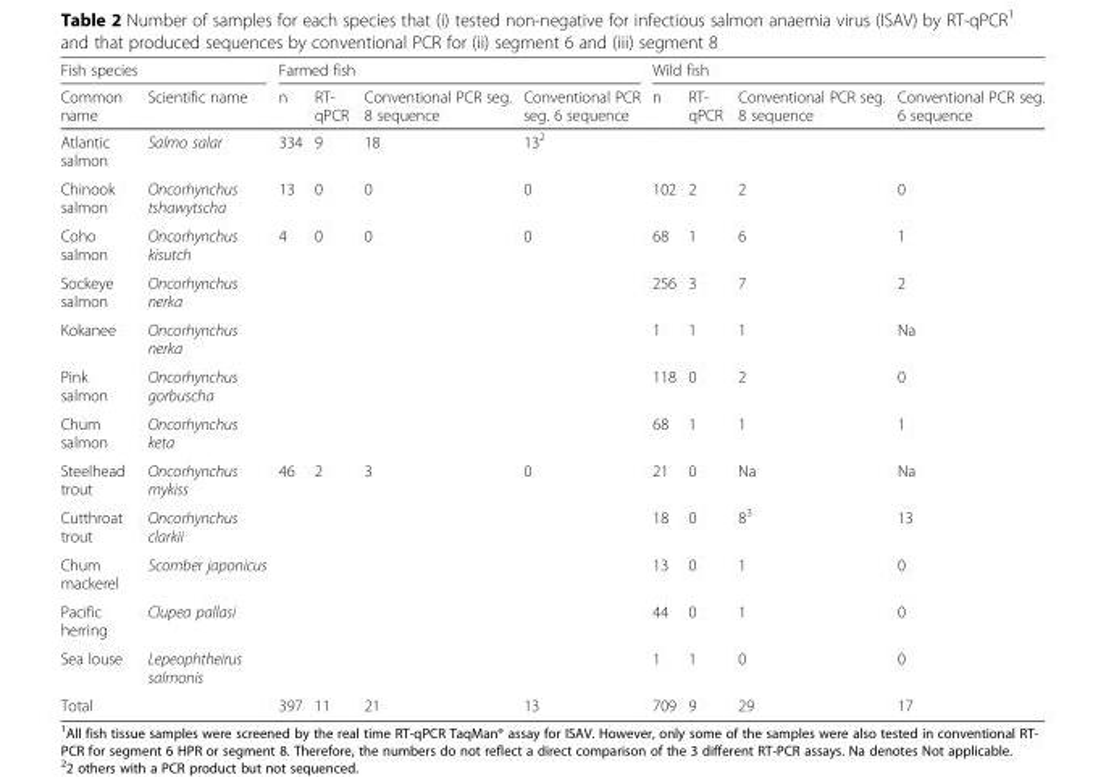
<table><thead><tr><td colspan="2">Fish species</td><td colspan="4">Farmed fish</td><td colspan="4">Wild fish</td></tr><tr><td>Common name</td><td>Scientific name</td><td>n</td><td>RT- qPCR</td><td>Conventional PCR seg. 8 sequence</td><td>Conventional PCR seg. 6 sequence</td><td>n</td><td>RT- qPCR</td><td>Conventional PCR seg. 8 sequence</td><td>Conventional PCR seg. 6 sequence</td></tr></thead><tbody><tr><td>Atlantic salmon</td><td>Salmo salar</td><td>334</td><td>9</td><td>18</td><td>13<sup>2</sup></td><td></td><td></td><td></td><td></td></tr><tr><td>Chinook salmon</td><td>Oncorhynchus tshawytscha</td><td>13</td><td>0</td><td>0</td><td>0</td><td>102</td><td>2</td><td>2</td><td>0</td></tr><tr><td>Coho salmon</td><td>Oncorhynchus kisutch</td><td>4</td><td>0</td><td>0</td><td>0</td><td>68</td><td>1</td><td>6</td><td>1</td></tr><tr><td>Sockeye salmon</td><td>Oncorhynchus nerka</td><td></td><td></td><td></td><td></td><td>256</td><td>3</td><td>7</td><td>2</td></tr><tr><td>Kokanee</td><td>Oncorhynchus nerka</td><td></td><td></td><td></td><td></td><td>1</td><td>1</td><td>1</td><td>Na</td></tr><tr><td>Pink salmon</td><td>Oncorhynchus gorbuscha</td><td></td><td></td><td></td><td></td><td>118</td><td>0</td><td>2</td><td>0</td></tr><tr><td>Chum salmon</td><td>Oncorhynchus keta</td><td></td><td></td><td></td><td></td><td>68</td><td>1</td><td>1</td><td>1</td></tr><tr><td>Steelhead trout</td><td>Oncorhynchus mykiss</td><td>46</td><td>2</td><td>3</td><td>0</td><td>21</td><td>0</td><td>Na</td><td>Na</td></tr><tr><td>Cutthroat trout</td><td>Oncorhynchus clarkii</td><td></td><td></td><td></td><td></td><td>18</td><td>0</td><td>8<sup>3</sup></td><td>13</td></tr><tr><td>Chum mackerel</td><td>Scomber japonicus</td><td></td><td></td><td></td><td></td><td>13</td><td>0</td><td>1</td><td>0</td></tr><tr><td>Pacific herring</td><td>Clupea pallasi</td><td></td><td></td><td></td><td></td><td>44</td><td>0</td><td>1</td><td>0</td></tr><tr><td>Sea louse</td><td>Lepeophtheirus salmonis</td><td></td><td></td><td></td><td></td><td>1</td><td>1</td><td>0</td><td>0</td></tr><tr><td>Total</td><td></td><td>397</td><td>11</td><td>21</td><td>13</td><td>709</td><td>9</td><td>29</td><td>17</td></tr></tbody></table>